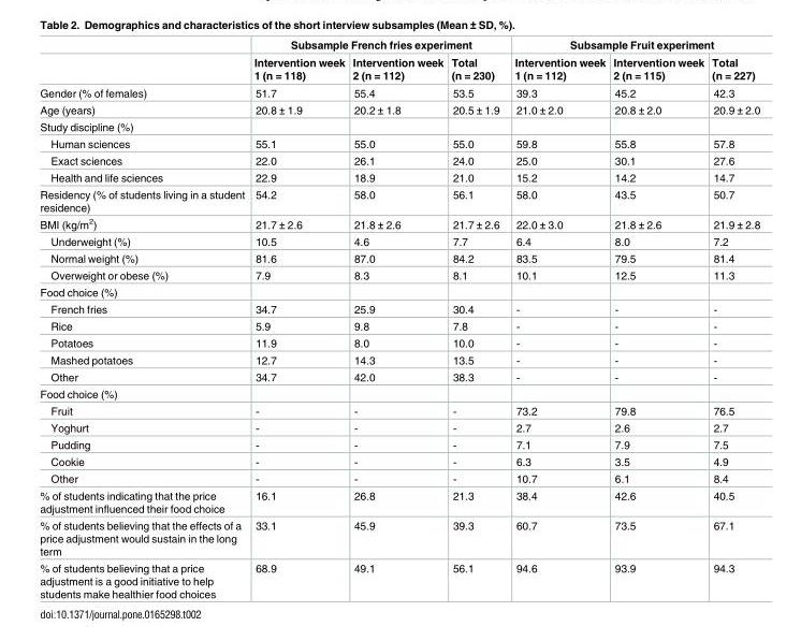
<table><thead><tr><td rowspan="2"></td><td colspan="3">Subsample French fries experiment</td><td colspan="3">Subsample Fruit experiment</td></tr><tr><td>Intervention week 1 (n = 118)</td><td>Intervention week 2 (n = 112)</td><td>Total (n = 230)</td><td>Intervention week 1 (n = 112)</td><td>Intervention week 2 (n = 115)</td><td>Total (n = 227)</td></tr></thead><tbody><tr><td>Gender (% of females)</td><td>51.7</td><td>55.4</td><td>53.5</td><td>39.3</td><td>45.2</td><td>42.3</td></tr><tr><td>Age (years)</td><td>20.8 ± 1.9</td><td>20.2 ± 1.8</td><td>20.5 ± 1.9</td><td>21.0 ± 2.0</td><td>20.8 ± 2.0</td><td>20.9 ± 2.0</td></tr><tr><td colspan="7">Study discipline (%)</td></tr><tr><td>Human sciences</td><td>55.1</td><td>55.0</td><td>55.0</td><td>59.8</td><td>55.8</td><td>57.8</td></tr><tr><td>Exact sciences</td><td>22.0</td><td>26.1</td><td>24.0</td><td>25.0</td><td>30.1</td><td>27.6</td></tr><tr><td>Health and life sciences</td><td>22.9</td><td>18.9</td><td>21.0</td><td>15.2</td><td>14.2</td><td>14.7</td></tr><tr><td>Residency (% of students living in a student residence)</td><td>54.2</td><td>58.0</td><td>56.1</td><td>58.0</td><td>43.5</td><td>50.7</td></tr><tr><td>BMI (kg/m<sup>2</sup>)</td><td>21.7 ± 2.6</td><td>21.8 ± 2.6</td><td>21.7 ± 2.6</td><td>22.0 ± 3.0</td><td>21.8 ± 2.6</td><td>21.9 ± 2.8</td></tr><tr><td>Underweight (%)</td><td>10.5</td><td>4.6</td><td>7.7</td><td>6.4</td><td>8.0</td><td>7.2</td></tr><tr><td>Normal weight (%)</td><td>81.6</td><td>87.0</td><td>84.2</td><td>83.5</td><td>79.5</td><td>81.4</td></tr><tr><td>Overweight or obese (%)</td><td>7.9</td><td>8.3</td><td>8.1</td><td>10.1</td><td>12.5</td><td>11.3</td></tr><tr><td colspan="7">Food choice (%)</td></tr><tr><td>French fries</td><td>34.7</td><td>25.9</td><td>30.4</td><td>-</td><td>-</td><td>-</td></tr><tr><td>Rice</td><td>5.9</td><td>9.8</td><td>7.8</td><td>-</td><td>-</td><td>-</td></tr><tr><td>Potatoes</td><td>11.9</td><td>8.0</td><td>10.0</td><td>-</td><td>-</td><td>-</td></tr><tr><td>Mashed potatoes</td><td>12.7</td><td>14.3</td><td>13.5</td><td>-</td><td>-</td><td>-</td></tr><tr><td>Other</td><td>34.7</td><td>42.0</td><td>38.3</td><td>-</td><td>-</td><td>-</td></tr><tr><td colspan="7">Food choice (%)</td></tr><tr><td>Fruit</td><td>-</td><td>-</td><td>-</td><td>73.2</td><td>79.8</td><td>76.5</td></tr><tr><td>Yoghurt</td><td>-</td><td>-</td><td>-</td><td>2.7</td><td>2.6</td><td>2.7</td></tr><tr><td>Pudding</td><td>-</td><td>-</td><td>-</td><td>7.1</td><td>7.9</td><td>7.5</td></tr><tr><td>Cookie</td><td>-</td><td>-</td><td>-</td><td>6.3</td><td>3.5</td><td>4.9</td></tr><tr><td>Other</td><td>-</td><td>-</td><td>-</td><td>10.7</td><td>6.1</td><td>8.4</td></tr><tr><td>% of students indicating that the price adjustment influenced their food choice</td><td>16.1</td><td>26.8</td><td>21.3</td><td>38.4</td><td>42.6</td><td>40.5</td></tr><tr><td>% of students believing that the effects of a price adjustment would sustain in the long term</td><td>33.1</td><td>45.9</td><td>39.3</td><td>60.7</td><td>73.5</td><td>67.1</td></tr><tr><td>% of students believing that a price adjustment is a good initiative to help students make healthier food choices</td><td>68.9</td><td>49.1</td><td>56.1</td><td>94.6</td><td>93.9</td><td>94.3</td></tr></tbody></table>